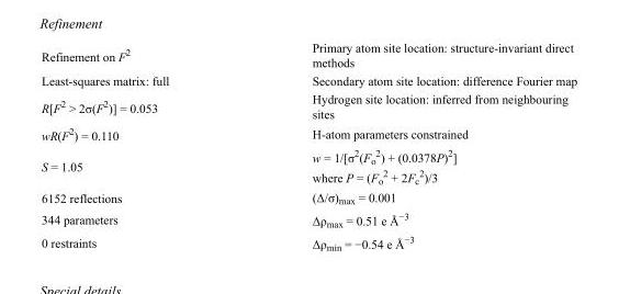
<table><tbody><tr><td>Refinement on F<sup>2</sup></td><td>Primary atom site location: structure-invariant direct methods</td></tr><tr><td>Least-squares matrix: full</td><td>Secondary atom site location: difference Fourier map</td></tr><tr><td>R[F<sup>2</sup> &gt; 2σ(F<sup>2</sup>)] = 0.053</td><td>Hydrogen site location: inferred from neighbouring sites</td></tr><tr><td>wR(F<sup>2</sup>) = 0.110</td><td>H-atom parameters constrained</td></tr><tr><td>S = 1.05</td><td>w = 1/[σ<sup>2</sup>(F<sub>o</sub> <sup>2</sup>) + (0.0378P)<sup>2</sup>] where P = (F<sub>o</sub> <sup>2</sup> + 2F<sub>c</sub> <sup>2</sup>)/3</td></tr><tr><td>6152 reflections</td><td>(Δ/σ)<sub>max</sub> = 0.001</td></tr><tr><td>344 parameters</td><td>Δρ<sub>max</sub> = 0.51 e Å<sup>−3</sup></td></tr><tr><td>0 restraints</td><td>Δρ<sub>min</sub> = −0.54 e Å<sup>−3</sup></td></tr></tbody></table>